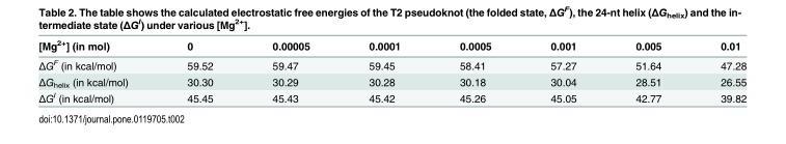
<table><thead><tr><td>[Mg<sup>2+</sup>] (in mol)</td><td>0</td><td>0.00005</td><td>0.0001</td><td>0.0005</td><td>0.001</td><td>0.005</td><td>0.01</td></tr></thead><tbody><tr><td>ΔG<sup>F</sup> (in kcal/mol)</td><td>59.52</td><td>59.47</td><td>59.45</td><td>58.41</td><td>57.27</td><td>51.64</td><td>47.28</td></tr><tr><td>ΔG<sub>helix</sub> (in kcal/mol)</td><td>30.30</td><td>30.29</td><td>30.28</td><td>30.18</td><td>30.04</td><td>28.51</td><td>26.55</td></tr><tr><td>ΔG<sup>I</sup> (in kcal/mol)</td><td>45.45</td><td>45.43</td><td>45.42</td><td>45.26</td><td>45.05</td><td>42.77</td><td>39.82</td></tr></tbody></table>